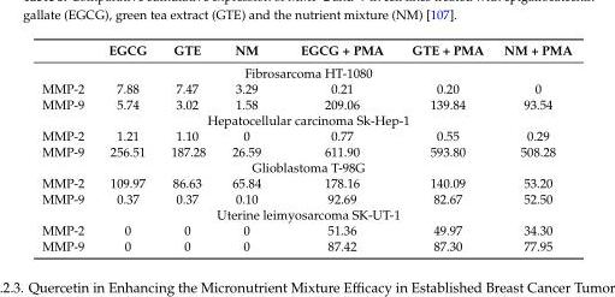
<table><thead><tr><td></td><td>EGCG</td><td>GTE</td><td>NM</td><td>EGCG + PMA</td><td>GTE + PMA</td><td>NM + PMA</td></tr></thead><tbody><tr><td colspan="7">Fibrosarcoma HT-1080</td></tr><tr><td>MMP-2</td><td>7.88</td><td>7.47</td><td>3.29</td><td>0.21</td><td>0.20</td><td>0</td></tr><tr><td>MMP-9</td><td>5.74</td><td>3.02</td><td>1.58</td><td>209.06</td><td>139.84</td><td>93.54</td></tr><tr><td colspan="7">Hepatocellular carcinoma Sk-Hep-1</td></tr><tr><td>MMP-2</td><td>1.21</td><td>1.10</td><td>0</td><td>0.77</td><td>0.55</td><td>0.29</td></tr><tr><td>MMP-9</td><td>256.51</td><td>187.28</td><td>26.59</td><td>611.90</td><td>593.80</td><td>508.28</td></tr><tr><td colspan="7">Glioblastoma T-98G</td></tr><tr><td>MMP-2</td><td>109.97</td><td>86.63</td><td>65.84</td><td>178.16</td><td>140.09</td><td>53.20</td></tr><tr><td>MMP-9</td><td>0.37</td><td>0.37</td><td>0.10</td><td>92.69</td><td>82.67</td><td>52.50</td></tr><tr><td colspan="7">Uterine leimyosarcoma SK-UT-1</td></tr><tr><td>MMP-2</td><td>0</td><td>0</td><td>0</td><td>51.36</td><td>49.97</td><td>34.30</td></tr><tr><td>MMP-9</td><td>0</td><td>0</td><td>0</td><td>87.42</td><td>87.30</td><td>77.95</td></tr></tbody></table>